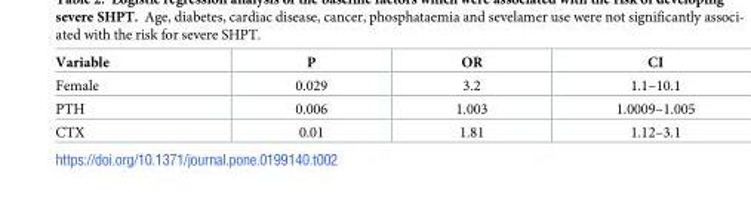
<table><thead><tr><td>Variable</td><td>P</td><td>OR</td><td>CI</td></tr></thead><tbody><tr><td>Female</td><td>0.029</td><td>3.2</td><td>1.1–10.1</td></tr><tr><td>PTH</td><td>0.006</td><td>1.003</td><td>1.0009–1.005</td></tr><tr><td>CTX</td><td>0.01</td><td>1.81</td><td>1.12–3.1</td></tr></tbody></table>